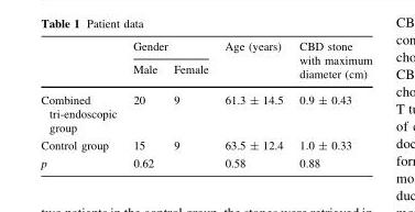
<table><thead><tr><td rowspan="2"></td><td colspan="2">Gender</td><td rowspan="2">Age (years)</td><td rowspan="2">CBD stone with maximum diameter (cm)</td></tr><tr><td>Male</td><td>Female</td></tr></thead><tbody><tr><td>Combined tri-endoscopic group</td><td>20</td><td>9</td><td>61.3 ± 14.5</td><td>0.9 ± 0.43</td></tr><tr><td>Control group</td><td>15</td><td>9</td><td>63.5 ± 12.4</td><td>1.0 ± 0.33</td></tr><tr><td>p</td><td colspan="2">0.62</td><td>0.58</td><td>0.88</td></tr></tbody></table>